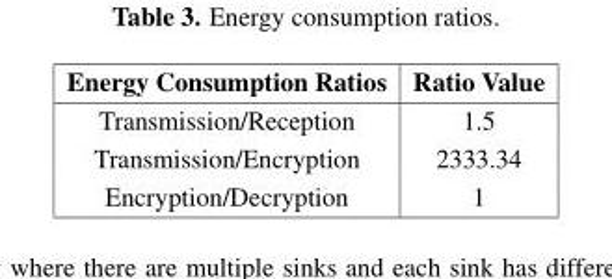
<table><thead><tr><td>Energy Consumption Ratios</td><td>Ratio Value</td></tr></thead><tbody><tr><td>Transmission/Reception</td><td>1.5</td></tr><tr><td>Transmission/Encryption</td><td>2333.34</td></tr><tr><td>Encryption/Decryption</td><td>1</td></tr></tbody></table>